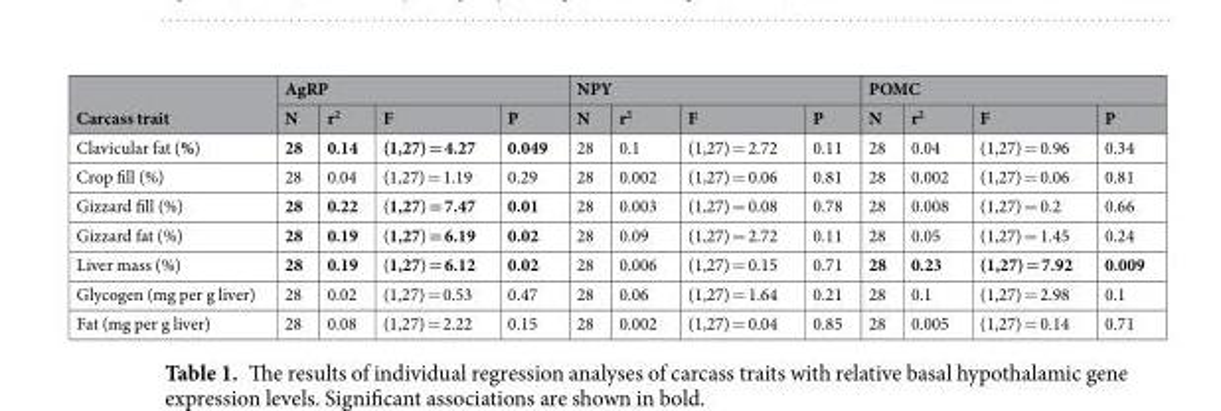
<table><thead><tr><td rowspan="2">Carcass trait</td><td colspan="4">AgRP</td><td colspan="4">NPY</td><td colspan="4">POMC</td></tr><tr><td>N</td><td>r<sup>2</sup></td><td>F</td><td>P</td><td>N</td><td>r<sup>2</sup></td><td>F</td><td>P</td><td>N</td><td>r<sup>2</sup></td><td>F</td><td>P</td></tr></thead><tbody><tr><td>Clavicular fat (%)</td><td>28</td><td>0.14</td><td>(1,27) = 4.27</td><td>0.049</td><td>28</td><td>0.1</td><td>(1,27) = 2.72</td><td>0.11</td><td>28</td><td>0.04</td><td>(1,27) = 0.96</td><td>0.34</td></tr><tr><td>Crop fill (%)</td><td>28</td><td>0.04</td><td>(1,27) = 1.19</td><td>0.29</td><td>28</td><td>0.002</td><td>(1,27) = 0.06</td><td>0.81</td><td>28</td><td>0.002</td><td>(1,27) = 0.06</td><td>0.81</td></tr><tr><td>Gizzard fill (%)</td><td>28</td><td>0.22</td><td>(1,27) = 7.47</td><td>0.01</td><td>28</td><td>0.003</td><td>(1,27) = 0.08</td><td>0.78</td><td>28</td><td>0.008</td><td>(1,27) = 0.2</td><td>0.66</td></tr><tr><td>Gizzard fat (%)</td><td>28</td><td>0.19</td><td>(1,27) = 6.19</td><td>0.02</td><td>28</td><td>0.09</td><td>(1,27) = 2.72</td><td>0.11</td><td>28</td><td>0.05</td><td>(1,27) = 1.45</td><td>0.24</td></tr><tr><td>Liver mass (%)</td><td>28</td><td>0.19</td><td>(1,27) = 6.12</td><td>0.02</td><td>28</td><td>0.006</td><td>(1,27) = 0.15</td><td>0.71</td><td>28</td><td>0.23</td><td>(1,27) = 7.92</td><td>0.009</td></tr><tr><td>Glycogen (mg per g liver)</td><td>28</td><td>0.02</td><td>(1,27) = 0.53</td><td>0.47</td><td>28</td><td>0.06</td><td>(1,27) = 1.64</td><td>0.21</td><td>28</td><td>0.1</td><td>(1,27) = 2.98</td><td>0.1</td></tr><tr><td>Fat (mg per g liver)</td><td>28</td><td>0.08</td><td>(1,27) = 2.22</td><td>0.15</td><td>28</td><td>0.002</td><td>(1,27) = 0.04</td><td>0.85</td><td>28</td><td>0.005</td><td>(1,27) = 0.14</td><td>0.71</td></tr></tbody></table>